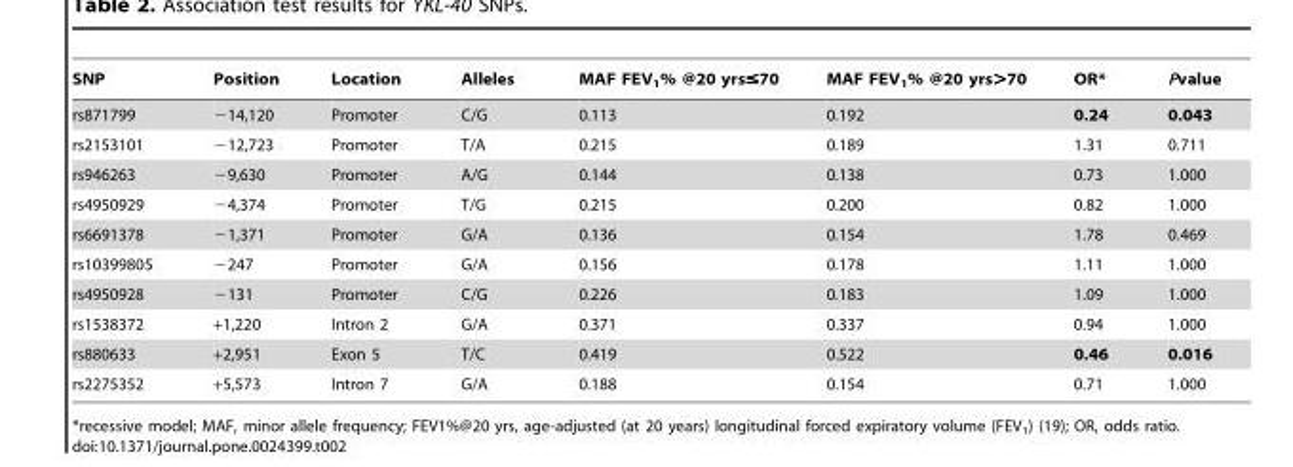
<table><thead><tr><td>SNP</td><td>Position</td><td>Location</td><td>Alleles</td><td>MAF FEV<sub>1</sub>% @20 yrs≤70</td><td>MAF FEV<sub>1</sub>% @20 yrs&gt;70</td><td>OR*</td><td>Pvalue</td></tr></thead><tbody><tr><td>rs871799</td><td>−14,120</td><td>Promoter</td><td>C/G</td><td>0.113</td><td>0.192</td><td>0.24</td><td>0.043</td></tr><tr><td>rs2153101</td><td>−12,723</td><td>Promoter</td><td>T/A</td><td>0.215</td><td>0.189</td><td>1.31</td><td>0.711</td></tr><tr><td>rs946263</td><td>−9,630</td><td>Promoter</td><td>A/G</td><td>0.144</td><td>0.138</td><td>0.73</td><td>1.000</td></tr><tr><td>rs4950929</td><td>−4,374</td><td>Promoter</td><td>T/G</td><td>0.215</td><td>0.200</td><td>0.82</td><td>1.000</td></tr><tr><td>rs6691378</td><td>−1,371</td><td>Promoter</td><td>G/A</td><td>0.136</td><td>0.154</td><td>1.78</td><td>0.469</td></tr><tr><td>rs10399805</td><td>−247</td><td>Promoter</td><td>G/A</td><td>0.156</td><td>0.178</td><td>1.11</td><td>1.000</td></tr><tr><td>rs4950928</td><td>−131</td><td>Promoter</td><td>C/G</td><td>0.226</td><td>0.183</td><td>1.09</td><td>1.000</td></tr><tr><td>rs1538372</td><td>+1,220</td><td>Intron 2</td><td>G/A</td><td>0.371</td><td>0.337</td><td>0.94</td><td>1.000</td></tr><tr><td>rs880633</td><td>+2,951</td><td>Exon 5</td><td>T/C</td><td>0.419</td><td>0.522</td><td>0.46</td><td>0.016</td></tr><tr><td>rs2275352</td><td>+5,573</td><td>Intron 7</td><td>G/A</td><td>0.188</td><td>0.154</td><td>0.71</td><td>1.000</td></tr></tbody></table>